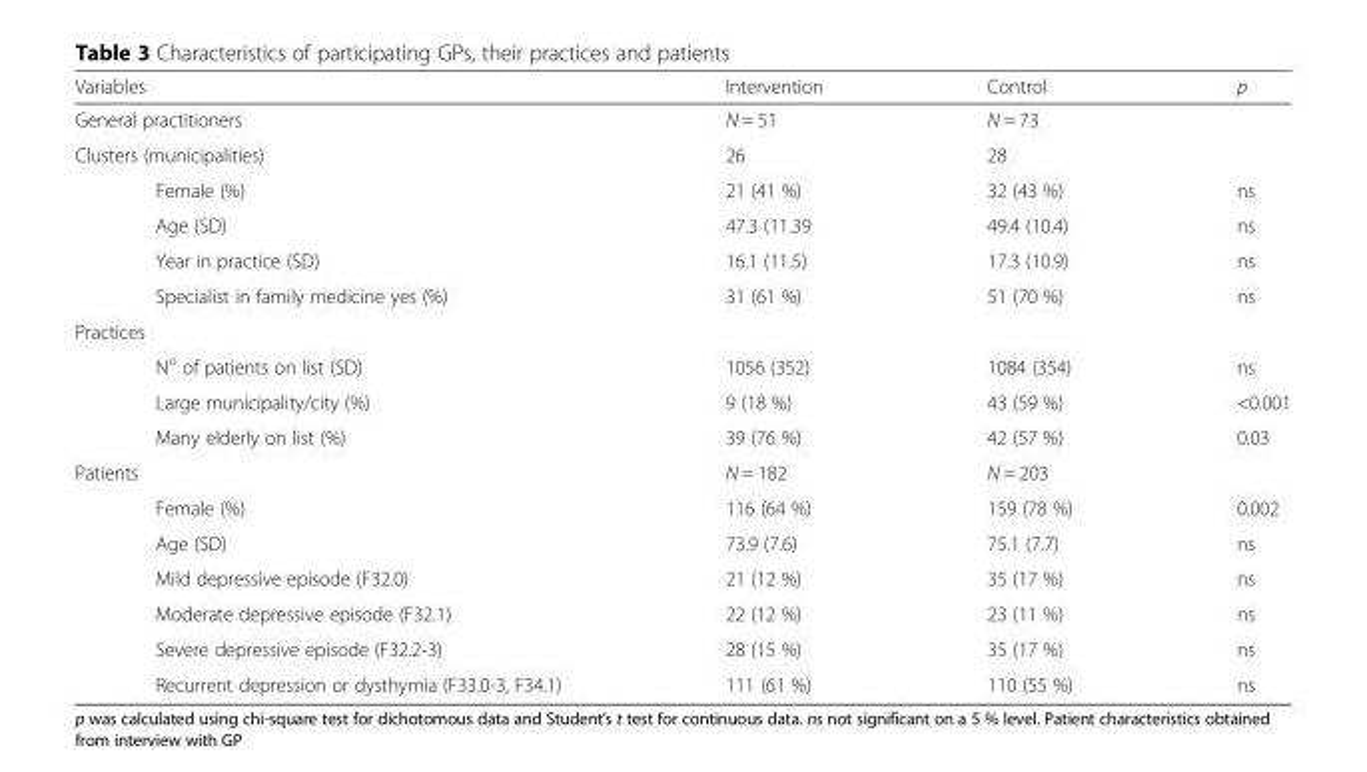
<table><thead><tr><td>Variables</td><td>Intervention</td><td>Control</td><td>p</td></tr></thead><tbody><tr><td>General practitioners</td><td>N = 51</td><td>N = 73</td><td></td></tr><tr><td>Clusters (municipalities)</td><td>26</td><td>28</td><td></td></tr><tr><td>Female (%)</td><td>21 (41 %)</td><td>32 (43 %)</td><td>ns</td></tr><tr><td>Age (SD)</td><td>47.3 (11.39</td><td>49.4 (10.4)</td><td>ns</td></tr><tr><td>Year in practice (SD)</td><td>16.1 (11.5)</td><td>17.3 (10.9)</td><td>ns</td></tr><tr><td>Specialist in family medicine yes (%)</td><td>31 (61 %)</td><td>51 (70 %)</td><td>ns</td></tr><tr><td colspan="4">Practices</td></tr><tr><td>N<sup>o</sup> of patients on list (SD)</td><td>1056 (352)</td><td>1084 (354)</td><td>ns</td></tr><tr><td>Large municipality/city (%)</td><td>9 (18 %)</td><td>43 (59 %)</td><td>&lt;0.001</td></tr><tr><td>Many elderly on list (%)</td><td>39 (76 %)</td><td>42 (57 %)</td><td>0.03</td></tr><tr><td>Patients</td><td>N = 182</td><td>N = 203</td><td></td></tr><tr><td>Female (%)</td><td>116 (64 %)</td><td>159 (78 %)</td><td>0.002</td></tr><tr><td>Age (SD)</td><td>73.9 (7.6)</td><td>75.1 (7.7)</td><td>ns</td></tr><tr><td>Mild depressive episode (F32.0)</td><td>21 (12 %)</td><td>35 (17 %)</td><td>ns</td></tr><tr><td>Moderate depressive episode (F32.1)</td><td>22 (12 %)</td><td>23 (11 %)</td><td>ns</td></tr><tr><td>Severe depressive episode (F32.2-3)</td><td>28 (15 %)</td><td>35 (17 %)</td><td>ns</td></tr><tr><td>Recurrent depression or dysthymia (F33.0-3, F34.1)</td><td>111 (61 %)</td><td>110 (55 %)</td><td>ns</td></tr></tbody></table>